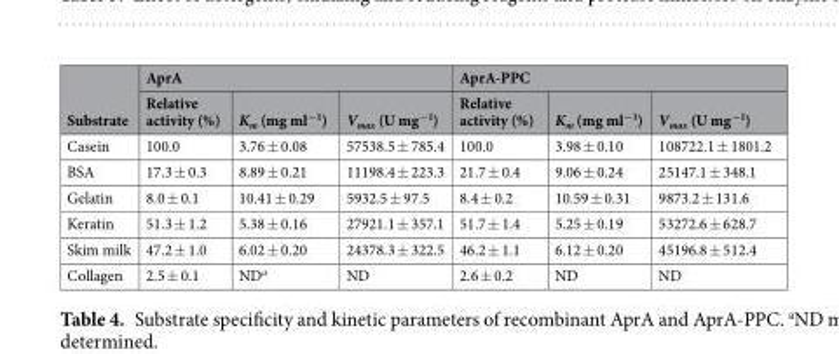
<table><thead><tr><td rowspan="2">Substrate</td><td colspan="3">AprA</td><td colspan="3">AprA-PPC</td></tr><tr><td>Relative activity (%)</td><td>K<sub>m</sub> (mg ml<sup>−1</sup>)</td><td>V<sub>max</sub> (U mg<sup>−1</sup>)</td><td>Relative activity (%)</td><td>K<sub>m</sub> (mg ml<sup>−1</sup>)</td><td>V<sub>max</sub> (U mg<sup>−1</sup>)</td></tr></thead><tbody><tr><td>Casein</td><td>100.0</td><td>3.76 ± 0.08</td><td>57538.5 ± 785.4</td><td>100.0</td><td>3.98 ± 0.10</td><td>108722.1 ± 1801.2</td></tr><tr><td>BSA</td><td>17.3 ± 0.3</td><td>8.89 ± 0.21</td><td>11198.4 ± 223.3</td><td>21.7 ± 0.4</td><td>9.06 ± 0.24</td><td>25147.1 ± 348.1</td></tr><tr><td>Gelatin</td><td>8.0 ± 0.1</td><td>10.41 ± 0.29</td><td>5932.5 ± 97.5</td><td>8.4 ± 0.2</td><td>10.59 ± 0.31</td><td>9873.2 ± 131.6</td></tr><tr><td>Keratin</td><td>51.3 ± 1.2</td><td>5.38 ± 0.16</td><td>27921.1 ± 357.1</td><td>51.7 ± 1.4</td><td>5.25 ± 0.19</td><td>53272.6 ± 628.7</td></tr><tr><td>Skim milk</td><td>47.2 ± 1.0</td><td>6.02 ± 0.20</td><td>24378.3 ± 322.5</td><td>46.2 ± 1.1</td><td>6.12 ± 0.20</td><td>45196.8 ± 512.4</td></tr><tr><td>Collagen</td><td>2.5 ± 0.1</td><td>ND<sup>a</sup></td><td>ND</td><td>2.6 ± 0.2</td><td>ND</td><td>ND</td></tr></tbody></table>